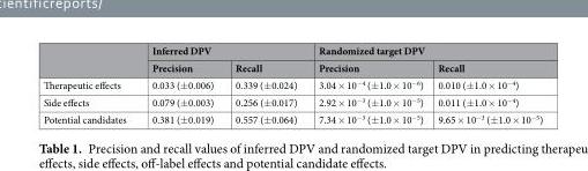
<table><thead><tr><td rowspan="2"></td><td colspan="2">Inferred DPV</td><td colspan="2">Randomized target DPV</td></tr><tr><td>Precision</td><td>Recall</td><td>Precision</td><td>Recall</td></tr></thead><tbody><tr><td>Therapeutic effects</td><td>0.033 (±0.006)</td><td>0.339 (±0.024)</td><td>3.04 × 10<sup>−4</sup> (±1.0 × 10<sup>−6</sup>)</td><td>0.010 (±1.0 × 10<sup>−4</sup>)</td></tr><tr><td>Side effects</td><td>0.079 (±0.003)</td><td>0.256 (±0.017)</td><td>2.92 × 10<sup>−3</sup> (±1.0 × 10<sup>−5</sup>)</td><td>0.011 (±1.0 × 10<sup>−4</sup>)</td></tr><tr><td>Potential candidates</td><td>0.381 (±0.019)</td><td>0.557 (±0.064)</td><td>7.34 × 10<sup>−3</sup> (±1.0 × 10<sup>−5</sup>)</td><td>9.65 × 10<sup>−3</sup> (±1.0 × 10<sup>−5</sup>)</td></tr></tbody></table>